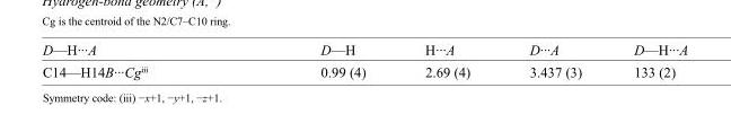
<table><tbody><tr><td>D—H···A</td><td>D—H</td><td>H···A</td><td>D···A</td><td>D—H···A</td></tr><tr><td>C14—H14B···Cg<sup>iii</sup></td><td>0.99 (4)</td><td>2.69 (4)</td><td>3.437 (3)</td><td>133 (2)</td></tr></tbody></table>